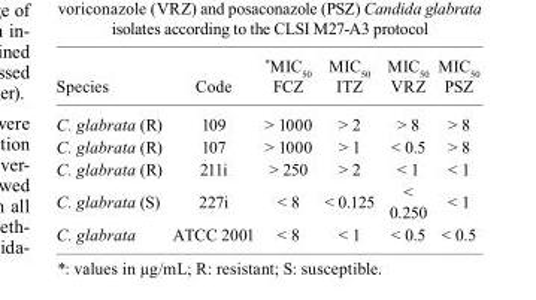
<table><thead><tr><td>Species</td><td>Code</td><td>*MIC<sub>50</sub> FCZ</td><td>MIC<sub>50</sub> ITZ</td><td>MIC50 VRZ</td><td>MIC50 PSZ</td></tr></thead><tbody><tr><td>C. glabrata (R)</td><td>109</td><td>&gt; 1000</td><td>&gt; 2</td><td>&gt; 8</td><td>&gt; 8</td></tr><tr><td>C. glabrata (R)</td><td>107</td><td>&gt; 1000</td><td>&gt; 1</td><td>&lt; 0.5</td><td>&gt; 8</td></tr><tr><td>C. glabrata (R)</td><td>211i</td><td>&gt; 250</td><td>&gt; 2</td><td>&lt; 1</td><td>&lt; 1</td></tr><tr><td>C. glabrata (S)</td><td>227i</td><td>&lt; 8</td><td>&lt; 0.125</td><td>&lt; 0.250</td><td>&lt; 1</td></tr><tr><td>C. glabrata</td><td>ATCC 2001</td><td>&lt; 8</td><td>&lt; 1</td><td>&lt; 0.5</td><td>&lt; 0.5</td></tr></tbody></table>